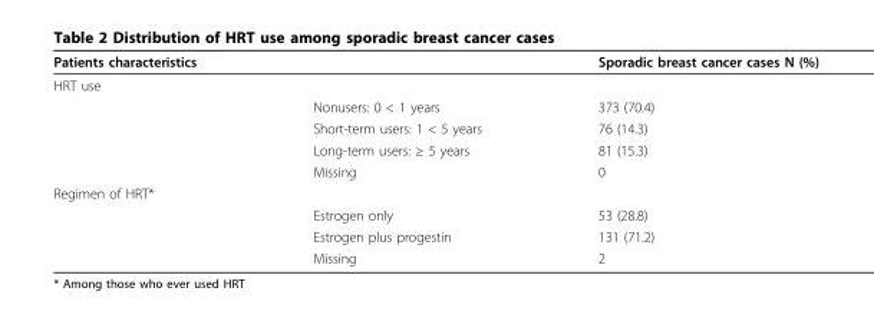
<table><thead><tr><td>Patients characteristics</td><td></td><td>Sporadic breast cancer cases N (%)</td></tr></thead><tbody><tr><td colspan="3">HRT use</td></tr><tr><td></td><td>Nonusers: 0 &lt; 1 years</td><td>373 (70.4)</td></tr><tr><td></td><td>Short-term users: 1 &lt; 5 years</td><td>76 (14.3)</td></tr><tr><td></td><td>Long-term users: ≥ 5 years</td><td>81 (15.3)</td></tr><tr><td></td><td>Missing</td><td>0</td></tr><tr><td colspan="3">Regimen of HRT*</td></tr><tr><td></td><td>Estrogen only</td><td>53 (28.8)</td></tr><tr><td></td><td>Estrogen plus progestin</td><td>131 (71.2)</td></tr><tr><td></td><td>Missing</td><td>2</td></tr></tbody></table>